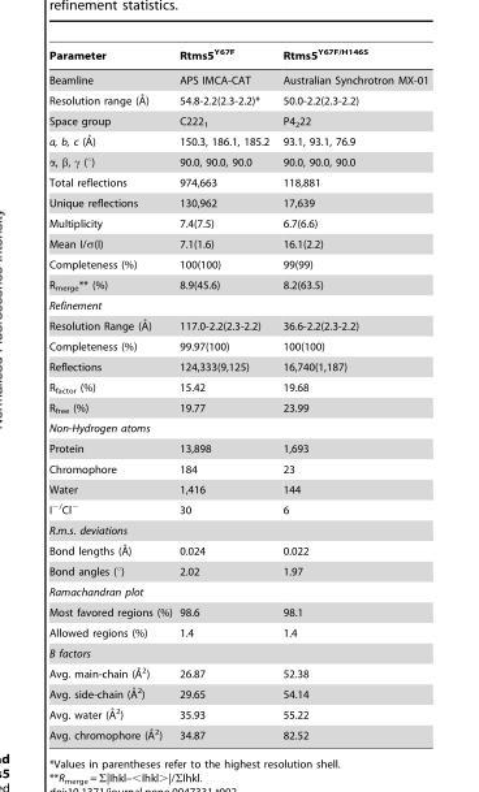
<table><thead><tr><td>Parameter</td><td>Rtms5<sup>Y67F</sup></td><td>Rtms5<sup>Y67F/H146S</sup></td></tr></thead><tbody><tr><td>Beamline</td><td>APS IMCA-CAT</td><td>Australian Synchrotron MX-01</td></tr><tr><td>Resolution range (A˚)</td><td>54.8-2.2(2.3-2.2)*</td><td>50.0-2.2(2.3-2.2)</td></tr><tr><td>Space group</td><td>C222<sub>1</sub></td><td>P4<sub>2</sub>22</td></tr><tr><td>a, b, c (A˚)</td><td>150.3, 186.1, 185.2</td><td>93.1, 93.1, 76.9</td></tr><tr><td>α, β, γ (°)</td><td>90.0, 90.0, 90.0</td><td>90.0, 90.0, 90.0</td></tr><tr><td>Total reflections</td><td>974,663</td><td>118,881</td></tr><tr><td>Unique reflections</td><td>130,962</td><td>17,639</td></tr><tr><td>Multiplicity</td><td>7.4(7.5)</td><td>6.7(6.6)</td></tr><tr><td>Mean I/σ(I)</td><td>7.1(1.6)</td><td>16.1(2.2)</td></tr><tr><td>Completeness (%)</td><td>100(100)</td><td>99(99)</td></tr><tr><td>R<sub>merge</sub>** (%)</td><td>8.9(45.6)</td><td>8.2(63.5)</td></tr><tr><td colspan="3">Refinement</td></tr><tr><td>Resolution Range (A˚)</td><td>117.0-2.2(2.3-2.2)</td><td>36.6-2.2(2.3-2.2)</td></tr><tr><td>Completeness (%)</td><td>99.97(100)</td><td>100(100)</td></tr><tr><td>Reflections</td><td>124,333(9,125)</td><td>16,740(1,187)</td></tr><tr><td>R<sub>factor</sub> (%)</td><td>15.42</td><td>19.68</td></tr><tr><td>R<sub>free</sub> (%)</td><td>19.77</td><td>23.99</td></tr><tr><td colspan="3">Non-Hydrogen atoms</td></tr><tr><td>Protein</td><td>13,898</td><td>1,693</td></tr><tr><td>Chromophore</td><td>184</td><td>23</td></tr><tr><td>Water</td><td>1,416</td><td>144</td></tr><tr><td>I<sup>−/</sup>Cl<sup>−</sup></td><td>30</td><td>6</td></tr><tr><td colspan="3">R.m.s. deviations</td></tr><tr><td>Bond lengths (A˚)</td><td>0.024</td><td>0.022</td></tr><tr><td>Bond angles (°)</td><td>2.02</td><td>1.97</td></tr><tr><td colspan="3">Ramachandran plot</td></tr><tr><td>Most favored regions (%)</td><td>98.6</td><td>98.1</td></tr><tr><td>Allowed regions (%)</td><td>1.4</td><td>1.4</td></tr><tr><td colspan="3">B factors</td></tr><tr><td>Avg. main-chain (A˚2)</td><td>26.87</td><td>52.38</td></tr><tr><td>Avg. side-chain (A˚2)</td><td>29.65</td><td>54.14</td></tr><tr><td>Avg. water (A˚2)</td><td>35.93</td><td>55.22</td></tr><tr><td>Avg. chromophore (A˚2)</td><td>34.87</td><td>82.52</td></tr></tbody></table>